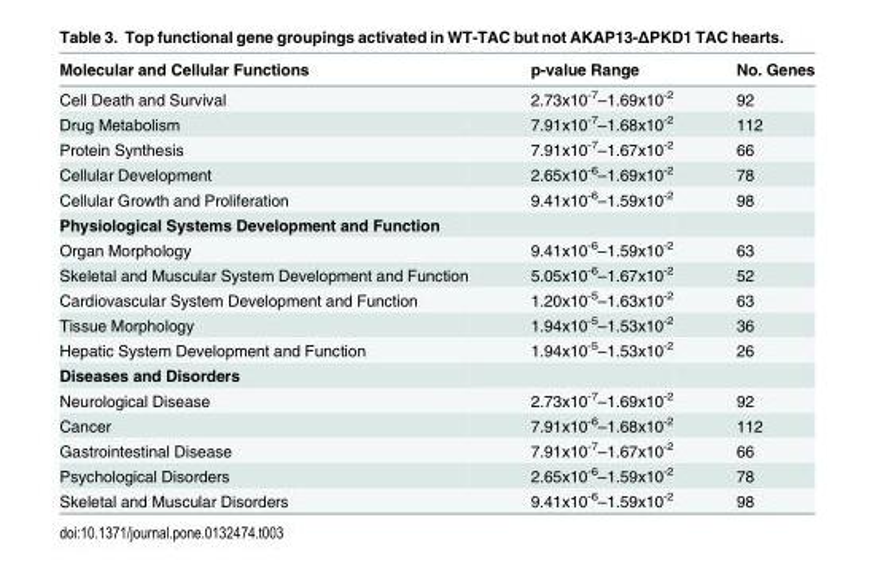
<table><thead><tr><td>Molecular and Cellular Functions</td><td>p-value Range</td><td>No. Genes</td></tr></thead><tbody><tr><td>Cell Death and Survival</td><td>2.73x10<sup>-7</sup>–1.69x10<sup>-2</sup></td><td>92</td></tr><tr><td>Drug Metabolism</td><td>7.91x10<sup>-7</sup>–1.68x10<sup>-2</sup></td><td>112</td></tr><tr><td>Protein Synthesis</td><td>7.91x10<sup>-7</sup>–1.67x10<sup>-2</sup></td><td>66</td></tr><tr><td>Cellular Development</td><td>2.65x10<sup>-6</sup>–1.69x10<sup>-2</sup></td><td>78</td></tr><tr><td>Cellular Growth and Proliferation</td><td>9.41x10<sup>-6</sup>–1.59x10<sup>-2</sup></td><td>98</td></tr><tr><td colspan="3">Physiological Systems Development and Function</td></tr><tr><td>Organ Morphology</td><td>9.41x10<sup>-6</sup>–1.59x10<sup>-2</sup></td><td>63</td></tr><tr><td>Skeletal and Muscular System Development and Function</td><td>5.05x10<sup>-6</sup>–1.67x10<sup>-2</sup></td><td>52</td></tr><tr><td>Cardiovascular System Development and Function</td><td>1.20x10<sup>-5</sup>–1.63x10<sup>-2</sup></td><td>63</td></tr><tr><td>Tissue Morphology</td><td>1.94x10<sup>-5</sup>–1.53x10<sup>-2</sup></td><td>36</td></tr><tr><td>Hepatic System Development and Function</td><td>1.94x10<sup>-5</sup>–1.53x10<sup>-2</sup></td><td>26</td></tr><tr><td colspan="3">Diseases and Disorders</td></tr><tr><td>Neurological Disease</td><td>2.73x10<sup>-7</sup>–1.69x10<sup>-2</sup></td><td>92</td></tr><tr><td>Cancer</td><td>7.91x10<sup>-6</sup>–1.68x10<sup>-2</sup></td><td>112</td></tr><tr><td>Gastrointestinal Disease</td><td>7.91x10<sup>-7</sup>–1.67x10<sup>-2</sup></td><td>66</td></tr><tr><td>Psychological Disorders</td><td>2.65x10<sup>-6</sup>–1.59x10<sup>-2</sup></td><td>78</td></tr><tr><td>Skeletal and Muscular Disorders</td><td>9.41x10<sup>-6</sup>–1.59x10<sup>-2</sup></td><td>98</td></tr></tbody></table>